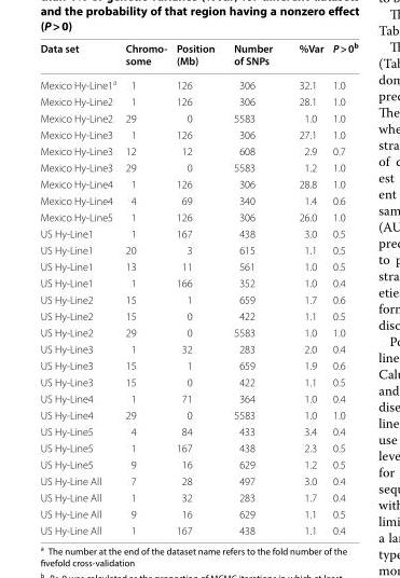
<table><thead><tr><td>Data set</td><td>Chromo- some</td><td>Position (Mb)</td><td>Number of SNPs</td><td>%Var</td><td>P &gt; 0<sup>b</sup></td></tr></thead><tbody><tr><td>Mexico Hy‑Line1<sup>a</sup></td><td>1</td><td>126</td><td>306</td><td>32.1</td><td>1.0</td></tr><tr><td>Mexico Hy‑Line2</td><td>1</td><td>126</td><td>306</td><td>28.1</td><td>1.0</td></tr><tr><td>Mexico Hy‑Line2</td><td>29</td><td>0</td><td>5583</td><td>1.0</td><td>1.0</td></tr><tr><td>Mexico Hy‑Line3</td><td>1</td><td>126</td><td>306</td><td>27.1</td><td>1.0</td></tr><tr><td>Mexico Hy‑Line3</td><td>12</td><td>12</td><td>608</td><td>2.9</td><td>0.7</td></tr><tr><td>Mexico Hy‑Line3</td><td>29</td><td>0</td><td>5583</td><td>1.2</td><td>1.0</td></tr><tr><td>Mexico Hy‑Line4</td><td>1</td><td>126</td><td>306</td><td>28.8</td><td>1.0</td></tr><tr><td>Mexico Hy‑Line4</td><td>4</td><td>69</td><td>340</td><td>1.4</td><td>0.6</td></tr><tr><td>Mexico Hy‑Line5</td><td>1</td><td>126</td><td>306</td><td>26.0</td><td>1.0</td></tr><tr><td>US Hy‑Line1</td><td>1</td><td>167</td><td>438</td><td>3.0</td><td>0.5</td></tr><tr><td>US Hy‑Line1</td><td>20</td><td>3</td><td>615</td><td>1.1</td><td>0.5</td></tr><tr><td>US Hy‑Line1</td><td>13</td><td>11</td><td>561</td><td>1.0</td><td>0.5</td></tr><tr><td>US Hy‑Line1</td><td>1</td><td>166</td><td>352</td><td>1.0</td><td>0.4</td></tr><tr><td>US Hy‑Line2</td><td>15</td><td>1</td><td>659</td><td>1.7</td><td>0.6</td></tr><tr><td>US Hy‑Line2</td><td>15</td><td>0</td><td>422</td><td>1.1</td><td>0.5</td></tr><tr><td>US Hy‑Line2</td><td>29</td><td>0</td><td>5583</td><td>1.0</td><td>1.0</td></tr><tr><td>US Hy‑Line3</td><td>1</td><td>32</td><td>283</td><td>2.0</td><td>0.4</td></tr><tr><td>US Hy‑Line3</td><td>15</td><td>1</td><td>659</td><td>1.9</td><td>0.6</td></tr><tr><td>US Hy‑Line3</td><td>15</td><td>0</td><td>422</td><td>1.1</td><td>0.5</td></tr><tr><td>US Hy‑Line4</td><td>1</td><td>71</td><td>364</td><td>1.0</td><td>0.4</td></tr><tr><td>US Hy‑Line4</td><td>29</td><td>0</td><td>5583</td><td>1.0</td><td>1.0</td></tr><tr><td>US Hy‑Line5</td><td>4</td><td>84</td><td>433</td><td>3.4</td><td>0.4</td></tr><tr><td>US Hy‑Line5</td><td>1</td><td>167</td><td>438</td><td>2.3</td><td>0.5</td></tr><tr><td>US Hy‑Line5</td><td>9</td><td>16</td><td>629</td><td>1.2</td><td>0.5</td></tr><tr><td>US Hy‑Line All</td><td>7</td><td>28</td><td>497</td><td>3.0</td><td>0.4</td></tr><tr><td>US Hy‑Line All</td><td>1</td><td>32</td><td>283</td><td>1.7</td><td>0.4</td></tr><tr><td>US Hy‑Line All</td><td>9</td><td>16</td><td>629</td><td>1.1</td><td>0.5</td></tr><tr><td>US Hy‑Line All</td><td>1</td><td>167</td><td>438</td><td>1.1</td><td>0.4</td></tr></tbody></table>